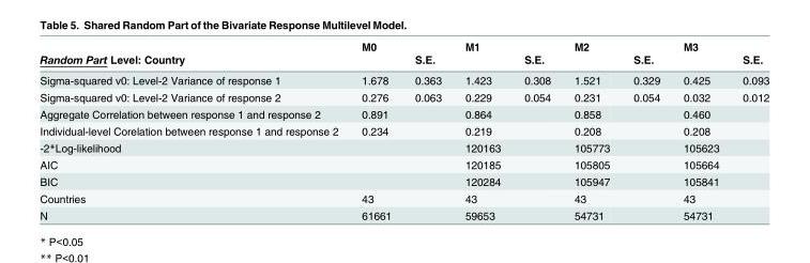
<table><thead><tr><td rowspan="2">Random Part Level: Country</td><td rowspan="2">M0</td><td rowspan="2">S.E.</td><td rowspan="2">M1</td><td rowspan="2">S.E.</td><td rowspan="2">M2</td><td rowspan="2">S.E.</td><td rowspan="2">M3</td><td rowspan="2">S.E.</td></tr><tr></tr></thead><tbody><tr><td>Sigma-squared v0: Level-2 Variance of response 1</td><td>1.678</td><td>0.363</td><td>1.423</td><td>0.308</td><td>1.521</td><td>0.329</td><td>0.425</td><td>0.093</td></tr><tr><td>Sigma-squared v0: Level-2 Variance of response 2</td><td>0.276</td><td>0.063</td><td>0.229</td><td>0.054</td><td>0.231</td><td>0.054</td><td>0.032</td><td>0.012</td></tr><tr><td>Aggregate Correlation between response 1 and response 2</td><td>0.891</td><td></td><td>0.864</td><td></td><td>0.858</td><td></td><td>0.460</td><td></td></tr><tr><td>Individual-level Corelation between response 1 and response 2</td><td>0.234</td><td></td><td>0.219</td><td></td><td>0.208</td><td></td><td>0.208</td><td></td></tr><tr><td>-2*Log-likelihood</td><td></td><td></td><td>120163</td><td></td><td>105773</td><td></td><td>105623</td><td></td></tr><tr><td>AIC</td><td></td><td></td><td>120185</td><td></td><td>105805</td><td></td><td>105664</td><td></td></tr><tr><td>BIC</td><td></td><td></td><td>120284</td><td></td><td>105947</td><td></td><td>105841</td><td></td></tr><tr><td>Countries</td><td>43</td><td></td><td>43</td><td></td><td>43</td><td></td><td>43</td><td></td></tr><tr><td>N</td><td>61661</td><td></td><td>59653</td><td></td><td>54731</td><td></td><td>54731</td><td></td></tr></tbody></table>